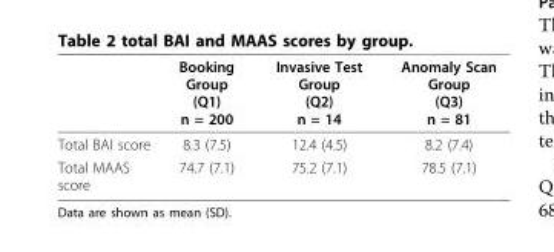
<table><thead><tr><td></td><td>Booking Group (Q1) n = 200</td><td>Invasive Test Group (Q2) n = 14</td><td>Anomaly Scan Group (Q3) n = 81</td></tr></thead><tbody><tr><td>Total BAI score</td><td>8.3 (7.5)</td><td>12.4 (4.5)</td><td>8.2 (7.4)</td></tr><tr><td>Total MAAS score</td><td>74.7 (7.1)</td><td>75.2 (7.1)</td><td>78.5 (7.1)</td></tr></tbody></table>